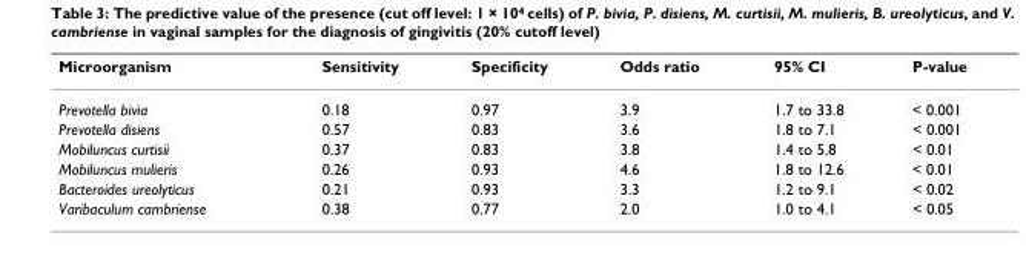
<table><thead><tr><td>Microorganism</td><td>Sensitivity</td><td>Specificity</td><td>Odds ratio</td><td>95% CI</td><td>P-value</td></tr></thead><tbody><tr><td>Prevotella bivia</td><td>0.18</td><td>0.97</td><td>3.9</td><td>1.7 to 33.8</td><td>&lt; 0.001</td></tr><tr><td>Prevotella disiens</td><td>0.57</td><td>0.83</td><td>3.6</td><td>1.8 to 7.1</td><td>&lt; 0.001</td></tr><tr><td>Mobiluncus curtisii</td><td>0.37</td><td>0.83</td><td>3.8</td><td>1.4 to 5.8</td><td>&lt; 0.01</td></tr><tr><td>Mobiluncus mulieris</td><td>0.26</td><td>0.93</td><td>4.6</td><td>1.8 to 12.6</td><td>&lt; 0.01</td></tr><tr><td>Bacteroides ureolyticus</td><td>0.21</td><td>0.93</td><td>3.3</td><td>1.2 to 9.1</td><td>&lt; 0.02</td></tr><tr><td>Varibaculum cambriense</td><td>0.38</td><td>0.77</td><td>2.0</td><td>1.0 to 4.1</td><td>&lt; 0.05</td></tr></tbody></table>